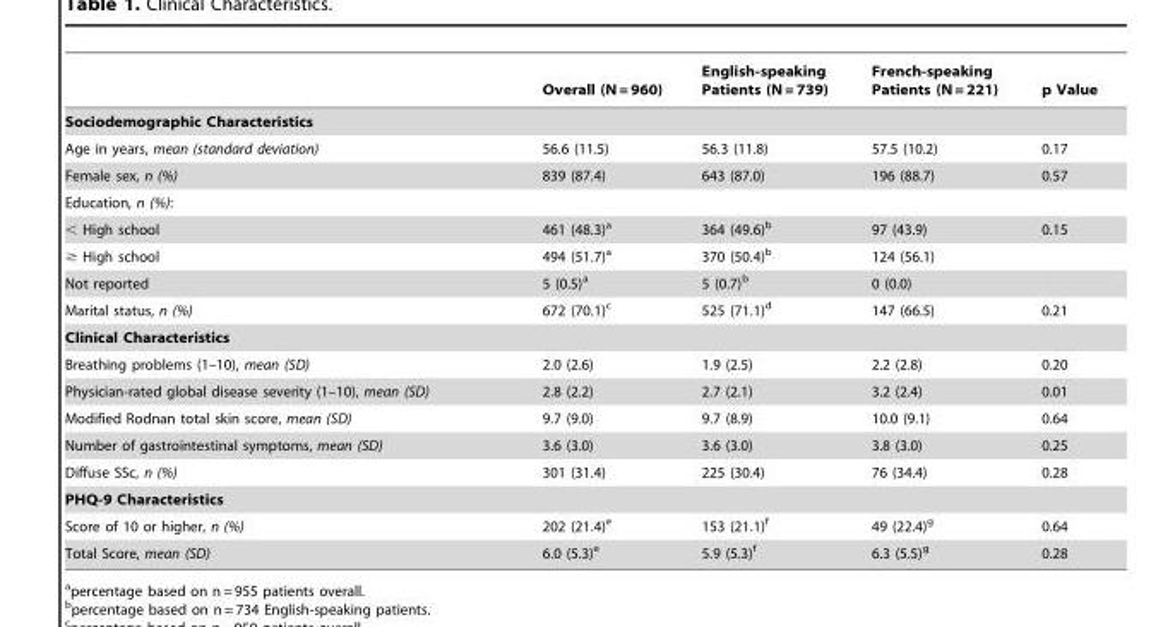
<table><thead><tr><td></td><td>Overall (N = 960)</td><td>English-speaking Patients (N = 739)</td><td>French-speaking Patients (N = 221)</td><td>p Value</td></tr></thead><tbody><tr><td colspan="5">Sociodemographic Characteristics</td></tr><tr><td>Age in years, mean (standard deviation)</td><td>56.6 (11.5)</td><td>56.3 (11.8)</td><td>57.5 (10.2)</td><td>0.17</td></tr><tr><td>Female sex, n (%)</td><td>839 (87.4)</td><td>643 (87.0)</td><td>196 (88.7)</td><td>0.57</td></tr><tr><td colspan="5">Education, n (%):</td></tr><tr><td>&lt; High school</td><td>461 (48.3)<sup>a</sup></td><td>364 (49.6)<sup>b</sup></td><td>97 (43.9)</td><td>0.15</td></tr><tr><td>≥ High school</td><td>494 (51.7)<sup>a</sup></td><td>370 (50.4)<sup>b</sup></td><td>124 (56.1)</td><td></td></tr><tr><td>Not reported</td><td>5 (0.5)<sup>a</sup></td><td>5 (0.7)<sup>b</sup></td><td>0 (0.0)</td><td></td></tr><tr><td>Marital status, n (%)</td><td>672 (70.1)<sup>c</sup></td><td>525 (71.1)<sup>d</sup></td><td>147 (66.5)</td><td>0.21</td></tr><tr><td colspan="5">Clinical Characteristics</td></tr><tr><td>Breathing problems (1–10), mean (SD)</td><td>2.0 (2.6)</td><td>1.9 (2.5)</td><td>2.2 (2.8)</td><td>0.20</td></tr><tr><td>Physician-rated global disease severity (1–10), mean (SD)</td><td>2.8 (2.2)</td><td>2.7 (2.1)</td><td>3.2 (2.4)</td><td>0.01</td></tr><tr><td>Modified Rodnan total skin score, mean (SD)</td><td>9.7 (9.0)</td><td>9.7 (8.9)</td><td>10.0 (9.1)</td><td>0.64</td></tr><tr><td>Number of gastrointestinal symptoms, mean (SD)</td><td>3.6 (3.0)</td><td>3.6 (3.0)</td><td>3.8 (3.0)</td><td>0.25</td></tr><tr><td>Diffuse SSc, n (%)</td><td>301 (31.4)</td><td>225 (30.4)</td><td>76 (34.4)</td><td>0.28</td></tr><tr><td colspan="5">PHQ-9 Characteristics</td></tr><tr><td>Score of 10 or higher, n (%)</td><td>202 (21.4)<sup>e</sup></td><td>153 (21.1)<sup>f</sup></td><td>49 (22.4)<sup>g</sup></td><td>0.64</td></tr><tr><td>Total Score, mean (SD)</td><td>6.0 (5.3)<sup>e</sup></td><td>5.9 (5.3)<sup>f</sup></td><td>6.3 (5.5)<sup>g</sup></td><td>0.28</td></tr></tbody></table>